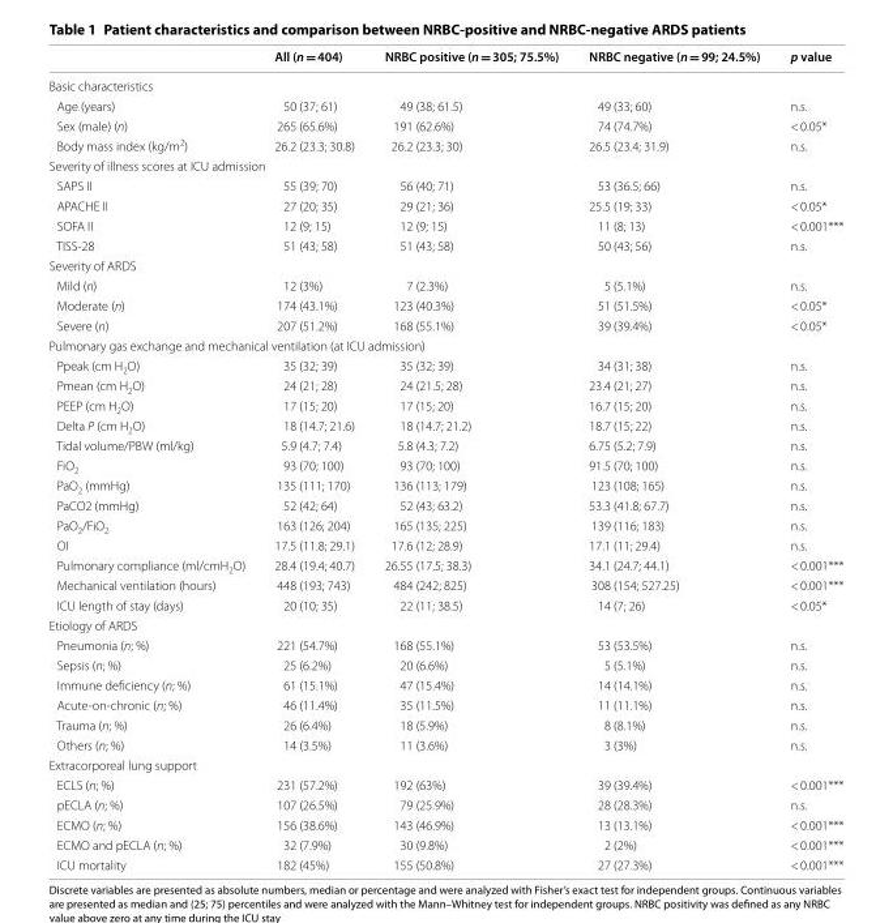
<table><thead><tr><td></td><td>All (n = 404)</td><td>NRBC positive (n = 305; 75.5%)</td><td>NRBC negative (n = 99; 24.5%)</td><td>p value</td></tr></thead><tbody><tr><td colspan="5">Basic characteristics</td></tr><tr><td>Age (years)</td><td>50 (37; 61)</td><td>49 (38; 61.5)</td><td>49 (33; 60)</td><td>n.s.</td></tr><tr><td>Sex (male) (n)</td><td>265 (65.6%)</td><td>191 (62.6%)</td><td>74 (74.7%)</td><td>&lt; 0.05*</td></tr><tr><td>Body mass index (kg/m<sup>2</sup>)</td><td>26.2 (23.3; 30.8)</td><td>26.2 (23.3; 30)</td><td>26.5 (23.4; 31.9)</td><td>n.s.</td></tr><tr><td colspan="5">Severity of illness scores at ICU admission</td></tr><tr><td>SAPS II</td><td>55 (39; 70)</td><td>56 (40; 71)</td><td>53 (36.5; 66)</td><td>n.s.</td></tr><tr><td>APACHE II</td><td>27 (20; 35)</td><td>29 (21; 36)</td><td>25.5 (19; 33)</td><td>&lt; 0.05*</td></tr><tr><td>SOFA II</td><td>12 (9; 15)</td><td>12 (9; 15)</td><td>11 (8; 13)</td><td>&lt; 0.001***</td></tr><tr><td>TISS‑28</td><td>51 (43; 58)</td><td>51 (43; 58)</td><td>50 (43; 56)</td><td>n.s.</td></tr><tr><td colspan="5">Severity of ARDS</td></tr><tr><td>Mild (n)</td><td>12 (3%)</td><td>7 (2.3%)</td><td>5 (5.1%)</td><td>n.s.</td></tr><tr><td>Moderate (n)</td><td>174 (43.1%)</td><td>123 (40.3%)</td><td>51 (51.5%)</td><td>&lt; 0.05*</td></tr><tr><td>Severe (n)</td><td>207 (51.2%)</td><td>168 (55.1%)</td><td>39 (39.4%)</td><td>&lt; 0.05*</td></tr><tr><td colspan="5">Pulmonary gas exchange and mechanical ventilation (at ICU admission)</td></tr><tr><td>Ppeak (cm H<sub>2</sub>O)</td><td>35 (32; 39)</td><td>35 (32; 39)</td><td>34 (31; 38)</td><td>n.s.</td></tr><tr><td>Pmean (cm H<sub>2</sub>O)</td><td>24 (21; 28)</td><td>24 (21.5; 28)</td><td>23.4 (21; 27)</td><td>n.s.</td></tr><tr><td>PEEP (cm H<sub>2</sub>O)</td><td>17 (15; 20)</td><td>17 (15; 20)</td><td>16.7 (15; 20)</td><td>n.s.</td></tr><tr><td>Delta P (cm H<sub>2</sub>O)</td><td>18 (14.7; 21.6)</td><td>18 (14.7; 21.2)</td><td>18.7 (15; 22)</td><td>n.s.</td></tr><tr><td>Tidal volume/PBW (ml/kg)</td><td>5.9 (4.7; 7.4)</td><td>5.8 (4.3; 7.2)</td><td>6.75 (5.2; 7.9)</td><td>n.s.</td></tr><tr><td>FiO<sub>2</sub></td><td>93 (70; 100)</td><td>93 (70; 100)</td><td>91.5 (70; 100)</td><td>n.s.</td></tr><tr><td>PaO<sub>2</sub> (mmHg)</td><td>135 (111; 170)</td><td>136 (113; 179)</td><td>123 (108; 165)</td><td>n.s.</td></tr><tr><td>PaCO2 (mmHg)</td><td>52 (42; 64)</td><td>52 (43; 63.2)</td><td>53.3 (41.8; 67.7)</td><td>n.s.</td></tr><tr><td>PaO<sub>2</sub>/FiO<sub>2</sub></td><td>163 (126; 204)</td><td>165 (135; 225)</td><td>139 (116; 183)</td><td>n.s.</td></tr><tr><td>OI</td><td>17.5 (11.8; 29.1)</td><td>17.6 (12; 28.9)</td><td>17.1 (11; 29.4)</td><td>n.s.</td></tr><tr><td>Pulmonary compliance (ml/cmH<sub>2</sub>O)</td><td>28.4 (19.4; 40.7)</td><td>26.55 (17.5; 38.3)</td><td>34.1 (24.7; 44.1)</td><td>&lt; 0.001***</td></tr><tr><td>Mechanical ventilation (hours)</td><td>448 (193; 743)</td><td>484 (242; 825)</td><td>308 (154; 527.25)</td><td>&lt; 0.001***</td></tr><tr><td>ICU length of stay (days)</td><td>20 (10; 35)</td><td>22 (11; 38.5)</td><td>14 (7; 26)</td><td>&lt; 0.05*</td></tr><tr><td colspan="5">Etiology of ARDS</td></tr><tr><td>Pneumonia (n; %)</td><td>221 (54.7%)</td><td>168 (55.1%)</td><td>53 (53.5%)</td><td>n.s.</td></tr><tr><td>Sepsis (n; %)</td><td>25 (6.2%)</td><td>20 (6.6%)</td><td>5 (5.1%)</td><td>n.s.</td></tr><tr><td>Immune deficiency (n; %)</td><td>61 (15.1%)</td><td>47 (15.4%)</td><td>14 (14.1%)</td><td>n.s.</td></tr><tr><td>Acute‑on‑chronic (n; %)</td><td>46 (11.4%)</td><td>35 (11.5%)</td><td>11 (11.1%)</td><td>n.s.</td></tr><tr><td>Trauma (n; %)</td><td>26 (6.4%)</td><td>18 (5.9%)</td><td>8 (8.1%)</td><td>n.s.</td></tr><tr><td>Others (n; %)</td><td>14 (3.5%)</td><td>11 (3.6%)</td><td>3 (3%)</td><td>n.s.</td></tr><tr><td colspan="5">Extracorporeal lung support</td></tr><tr><td>ECLS (n; %)</td><td>231 (57.2%)</td><td>192 (63%)</td><td>39 (39.4%)</td><td>&lt; 0.001***</td></tr><tr><td>pECLA (n; %)</td><td>107 (26.5%)</td><td>79 (25.9%)</td><td>28 (28.3%)</td><td>n.s.</td></tr><tr><td>ECMO (n; %)</td><td>156 (38.6%)</td><td>143 (46.9%)</td><td>13 (13.1%)</td><td>&lt; 0.001***</td></tr><tr><td>ECMO and pECLA (n; %)</td><td>32 (7.9%)</td><td>30 (9.8%)</td><td>2 (2%)</td><td>&lt; 0.001***</td></tr><tr><td>ICU mortality</td><td>182 (45%)</td><td>155 (50.8%)</td><td>27 (27.3%)</td><td>&lt; 0.001***</td></tr></tbody></table>